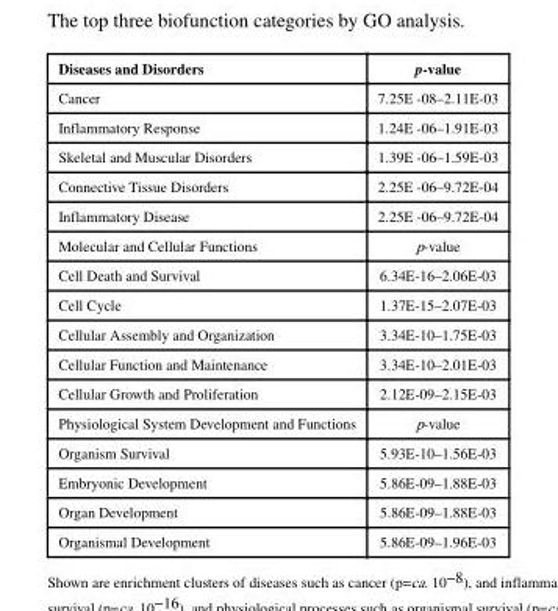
<table><thead><tr><td>Diseases and Disorders</td><td>p-value</td></tr></thead><tbody><tr><td>Cancer</td><td>7.25E -08–2.11E-03</td></tr><tr><td>Inflammatory Response</td><td>1.24E -06–1.91E-03</td></tr><tr><td>Skeletal and Muscular Disorders</td><td>1.39E -06–1.59E-03</td></tr><tr><td>Connective Tissue Disorders</td><td>2.25E -06–9.72E-04</td></tr><tr><td>Inflammatory Disease</td><td>2.25E -06–9.72E-04</td></tr><tr><td>Molecular and Cellular Functions</td><td>p-value</td></tr><tr><td>Cell Death and Survival</td><td>6.34E-16–2.06E-03</td></tr><tr><td>Cell Cycle</td><td>1.37E-15–2.07E-03</td></tr><tr><td>Cellular Assembly and Organization</td><td>3.34E-10–1.75E-03</td></tr><tr><td>Cellular Function and Maintenance</td><td>3.34E-10–2.01E-03</td></tr><tr><td>Cellular Growth and Proliferation</td><td>2.12E-09–2.15E-03</td></tr><tr><td>Physiological System Development and Functions</td><td>p-value</td></tr><tr><td>Organism Survival</td><td>5.93E-10–1.56E-03</td></tr><tr><td>Embryonic Development</td><td>5.86E-09–1.88E-03</td></tr><tr><td>Organ Development</td><td>5.86E-09–1.88E-03</td></tr><tr><td>Organismal Development</td><td>5.86E-09–1.96E-03</td></tr></tbody></table>